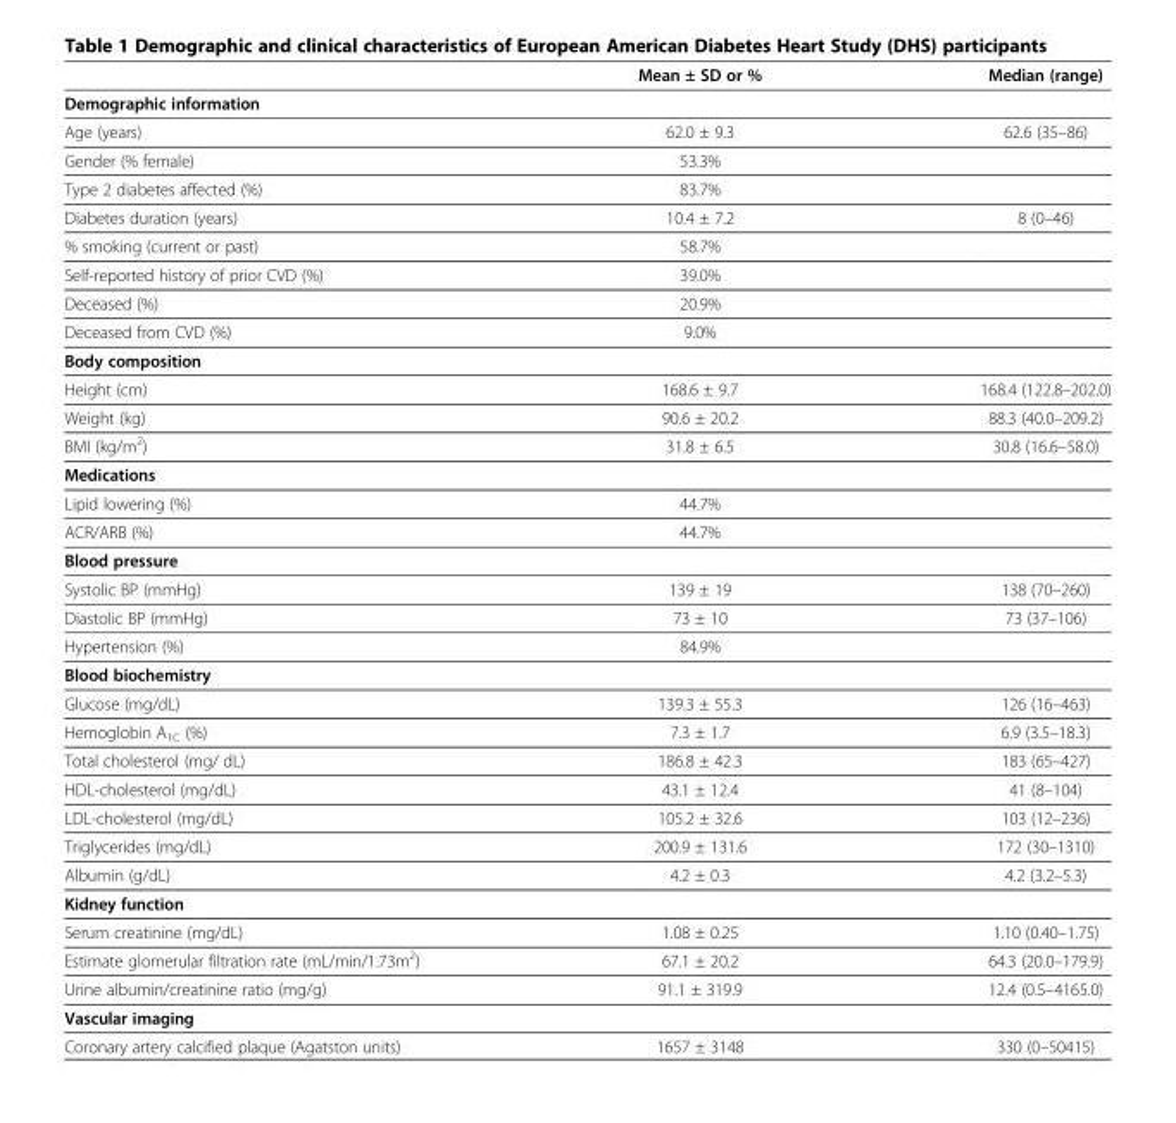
<table><thead><tr><td></td><td>Mean ± SD or %</td><td>Median (range)</td></tr></thead><tbody><tr><td colspan="3">Demographic information</td></tr><tr><td>Age (years)</td><td>62.0 ± 9.3</td><td>62.6 (35–86)</td></tr><tr><td>Gender (% female)</td><td>53.3%</td><td></td></tr><tr><td>Type 2 diabetes affected (%)</td><td>83.7%</td><td></td></tr><tr><td>Diabetes duration (years)</td><td>10.4 ± 7.2</td><td>8 (0–46)</td></tr><tr><td>% smoking (current or past)</td><td>58.7%</td><td></td></tr><tr><td>Self-reported history of prior CVD (%)</td><td>39.0%</td><td></td></tr><tr><td>Deceased (%)</td><td>20.9%</td><td></td></tr><tr><td>Deceased from CVD (%)</td><td>9.0%</td><td></td></tr><tr><td colspan="3">Body composition</td></tr><tr><td>Height (cm)</td><td>168.6 ± 9.7</td><td>168.4 (122.8–202.0)</td></tr><tr><td>Weight (kg)</td><td>90.6 ± 20.2</td><td>88.3 (40.0–209.2)</td></tr><tr><td>BMI (kg/m<sup>2</sup>)</td><td>31.8 ± 6.5</td><td>30.8 (16.6–58.0)</td></tr><tr><td colspan="3">Medications</td></tr><tr><td>Lipid lowering (%)</td><td>44.7%</td><td></td></tr><tr><td>ACR/ARB (%)</td><td>44.7%</td><td></td></tr><tr><td colspan="3">Blood pressure</td></tr><tr><td>Systolic BP (mmHg)</td><td>139 ± 19</td><td>138 (70–260)</td></tr><tr><td>Diastolic BP (mmHg)</td><td>73 ± 10</td><td>73 (37–106)</td></tr><tr><td>Hypertension (%)</td><td>84.9%</td><td></td></tr><tr><td colspan="3">Blood biochemistry</td></tr><tr><td>Glucose (mg/dL)</td><td>139.3 ± 55.3</td><td>126 (16–463)</td></tr><tr><td>Hemoglobin A<sub>1C</sub> (%)</td><td>7.3 ± 1.7</td><td>6.9 (3.5–18.3)</td></tr><tr><td>Total cholesterol (mg/ dL)</td><td>186.8 ± 42.3</td><td>183 (65–427)</td></tr><tr><td>HDL-cholesterol (mg/dL)</td><td>43.1 ± 12.4</td><td>41 (8–104)</td></tr><tr><td>LDL-cholesterol (mg/dL)</td><td>105.2 ± 32.6</td><td>103 (12–236)</td></tr><tr><td>Triglycerides (mg/dL)</td><td>200.9 ± 131.6</td><td>172 (30–1310)</td></tr><tr><td>Albumin (g/dL)</td><td>4.2 ± 0.3</td><td>4.2 (3.2–5.3)</td></tr><tr><td colspan="3">Kidney function</td></tr><tr><td>Serum creatinine (mg/dL)</td><td>1.08 ± 0.25</td><td>1.10 (0.40–1.75)</td></tr><tr><td>Estimate glomerular filtration rate (mL/min/1.73m<sup>2</sup>)</td><td>67.1 ± 20.2</td><td>64.3 (20.0–179.9)</td></tr><tr><td>Urine albumin/creatinine ratio (mg/g)</td><td>91.1 ± 319.9</td><td>12.4 (0.5–4165.0)</td></tr><tr><td colspan="3">Vascular imaging</td></tr><tr><td>Coronary artery calcified plaque (Agatston units)</td><td>1657 ± 3148</td><td>330 (0–50415)</td></tr></tbody></table>